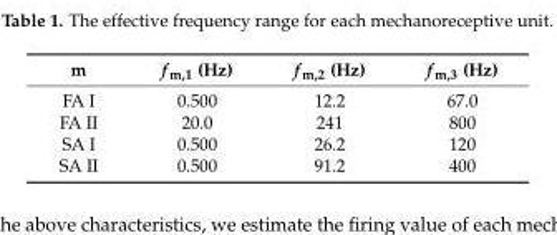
<table><thead><tr><td>m</td><td>f<sub>m,1</sub> (Hz)</td><td>f<sub>m,2</sub> (Hz)</td><td>f<sub>m,3</sub> (Hz)</td></tr></thead><tbody><tr><td>FA I</td><td>0.500</td><td>12.2</td><td>67.0</td></tr><tr><td>FA II</td><td>20.0</td><td>241</td><td>800</td></tr><tr><td>SA I</td><td>0.500</td><td>26.2</td><td>120</td></tr><tr><td>SA II</td><td>0.500</td><td>91.2</td><td>400</td></tr></tbody></table>